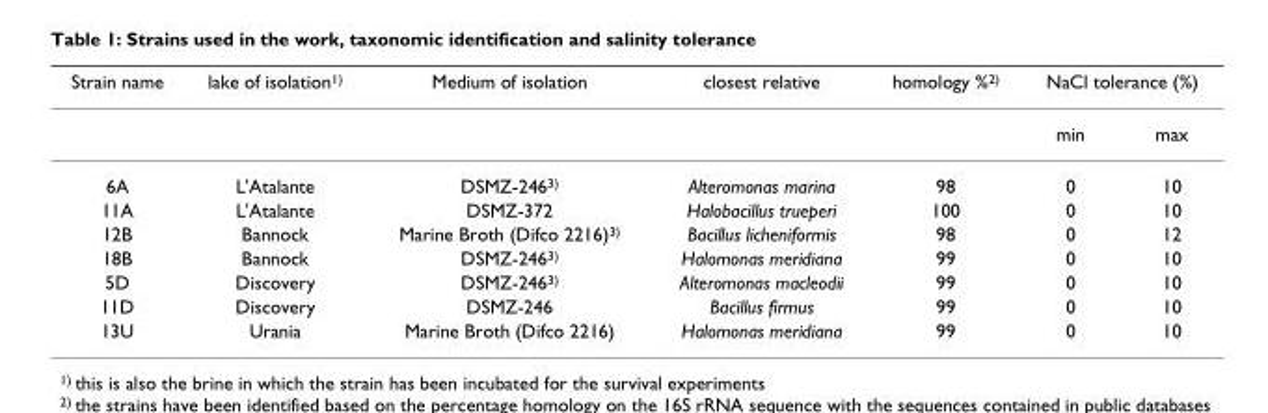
<table><thead><tr><td rowspan="2">Strain name</td><td rowspan="2">lake of isolation<sup>1)</sup></td><td rowspan="2">Medium of isolation</td><td rowspan="2">closest relative</td><td rowspan="2">homology %<sup>2)</sup></td><td colspan="2">NaCl tolerance (%)</td></tr><tr><td>min</td><td>max</td></tr></thead><tbody><tr><td>6A</td><td>L&#x27;Atalante</td><td>DSMZ-246<sup>3)</sup></td><td>Alteromonas marina</td><td>98</td><td>0</td><td>10</td></tr><tr><td>11A</td><td>L&#x27;Atalante</td><td>DSMZ-372</td><td>Halobacillus trueperi</td><td>100</td><td>0</td><td>10</td></tr><tr><td>12B</td><td>Bannock</td><td>Marine Broth (Difco 2216)<sup>3)</sup></td><td>Bacillus licheniformis</td><td>98</td><td>0</td><td>12</td></tr><tr><td>18B</td><td>Bannock</td><td>DSMZ-246<sup>3)</sup></td><td>Halomonas meridiana</td><td>99</td><td>0</td><td>10</td></tr><tr><td>5D</td><td>Discovery</td><td>DSMZ-246<sup>3)</sup></td><td>Alteromonas macleodii</td><td>99</td><td>0</td><td>10</td></tr><tr><td>11D</td><td>Discovery</td><td>DSMZ-246</td><td>Bacillus firmus</td><td>99</td><td>0</td><td>10</td></tr><tr><td>13U</td><td>Urania</td><td>Marine Broth (Difco 2216)</td><td>Halomonas meridiana</td><td>99</td><td>0</td><td>10</td></tr></tbody></table>